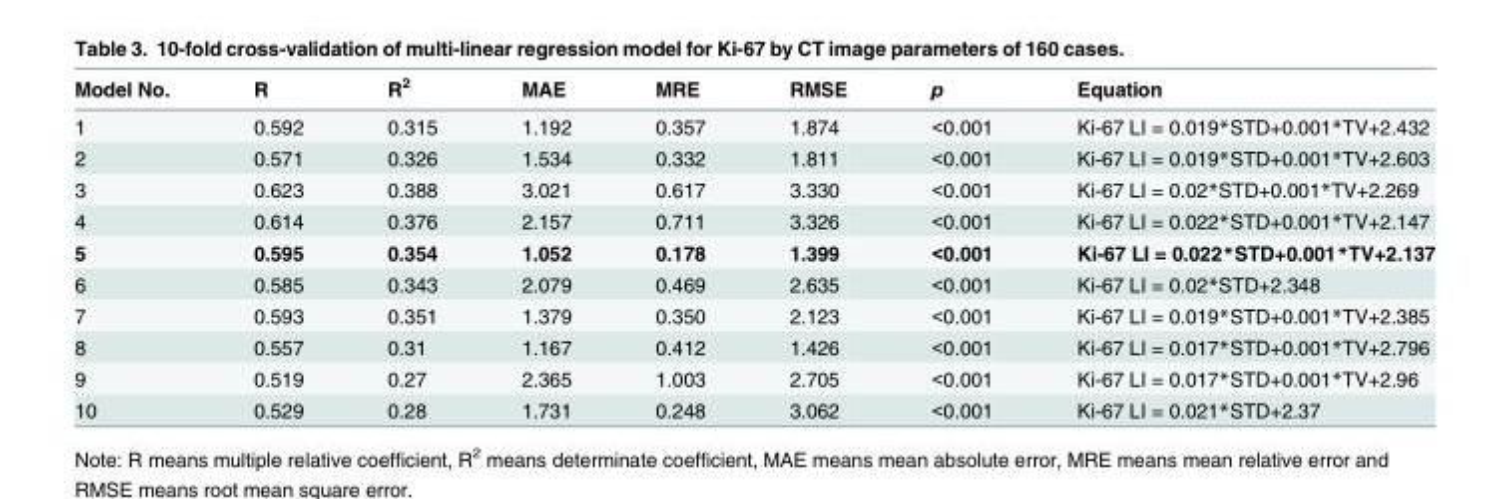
<table><thead><tr><td>Model No.</td><td>R</td><td>R<sup>2</sup></td><td>MAE</td><td>MRE</td><td>RMSE</td><td>p</td><td>Equation</td></tr></thead><tbody><tr><td>1</td><td>0.592</td><td>0.315</td><td>1.192</td><td>0.357</td><td>1.874</td><td>&lt;0.001</td><td>Ki-67 LI = 0.019*STD+0.001*TV+2.432</td></tr><tr><td>2</td><td>0.571</td><td>0.326</td><td>1.534</td><td>0.332</td><td>1.811</td><td>&lt;0.001</td><td>Ki-67 LI = 0.019*STD+0.001*TV+2.603</td></tr><tr><td>3</td><td>0.623</td><td>0.388</td><td>3.021</td><td>0.617</td><td>3.330</td><td>&lt;0.001</td><td>Ki-67 LI = 0.02*STD+0.001*TV+2.269</td></tr><tr><td>4</td><td>0.614</td><td>0.376</td><td>2.157</td><td>0.711</td><td>3.326</td><td>&lt;0.001</td><td>Ki-67 LI = 0.022*STD+0.001*TV+2.147</td></tr><tr><td>5</td><td>0.595</td><td>0.354</td><td>1.052</td><td>0.178</td><td>1.399</td><td>&lt;0.001</td><td>Ki-67 LI = 0.022*STD+0.001*TV+2.137</td></tr><tr><td>6</td><td>0.585</td><td>0.343</td><td>2.079</td><td>0.469</td><td>2.635</td><td>&lt;0.001</td><td>Ki-67 LI = 0.02*STD+2.348</td></tr><tr><td>7</td><td>0.593</td><td>0.351</td><td>1.379</td><td>0.350</td><td>2.123</td><td>&lt;0.001</td><td>Ki-67 LI = 0.019*STD+0.001*TV+2.385</td></tr><tr><td>8</td><td>0.557</td><td>0.31</td><td>1.167</td><td>0.412</td><td>1.426</td><td>&lt;0.001</td><td>Ki-67 LI = 0.017*STD+0.001*TV+2.796</td></tr><tr><td>9</td><td>0.519</td><td>0.27</td><td>2.365</td><td>1.003</td><td>2.705</td><td>&lt;0.001</td><td>Ki-67 LI = 0.017*STD+0.001*TV+2.96</td></tr><tr><td>10</td><td>0.529</td><td>0.28</td><td>1.731</td><td>0.248</td><td>3.062</td><td>&lt;0.001</td><td>Ki-67 LI = 0.021*STD+2.37</td></tr></tbody></table>